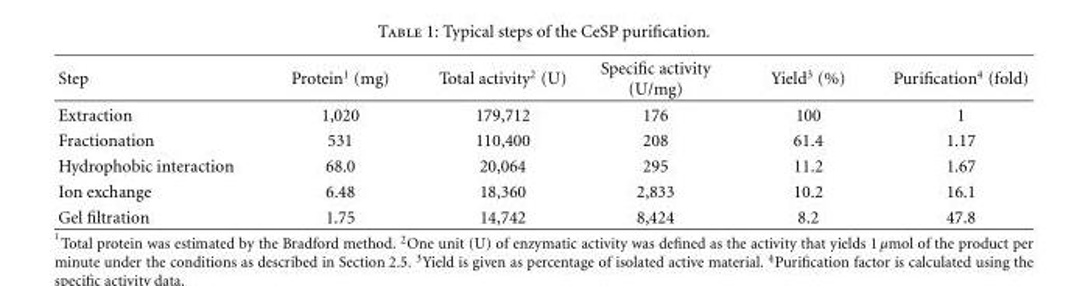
<table><thead><tr><td>Step</td><td>Protein<sup>1</sup> (mg)</td><td>Total activity<sup>2</sup> (U)</td><td>Specific activity (U/mg)</td><td>Yield<sup>3</sup> (%)</td><td>Purification<sup>4</sup> (fold)</td></tr></thead><tbody><tr><td>Extraction</td><td>1,020</td><td>179,712</td><td>176</td><td>100</td><td>1</td></tr><tr><td>Fractionation</td><td>531</td><td>110,400</td><td>208</td><td>61.4</td><td>1.17</td></tr><tr><td>Hydrophobic interaction</td><td>68.0</td><td>20,064</td><td>295</td><td>11.2</td><td>1.67</td></tr><tr><td>Ion exchange</td><td>6.48</td><td>18,360</td><td>2,833</td><td>10.2</td><td>16.1</td></tr><tr><td>Gel filtration</td><td>1.75</td><td>14,742</td><td>8,424</td><td>8.2</td><td>47.8</td></tr></tbody></table>